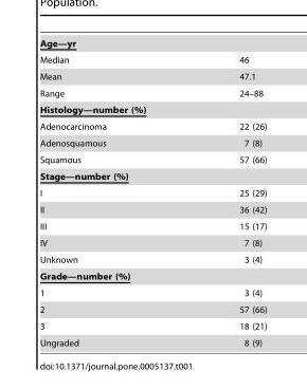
<table><tbody><tr><td colspan="2">Age—yr</td></tr><tr><td>Median</td><td>46</td></tr><tr><td>Mean</td><td>47.1</td></tr><tr><td>Range</td><td>24–88</td></tr><tr><td colspan="2">Histology—number (%)</td></tr><tr><td>Adenocarcinoma</td><td>22 (26)</td></tr><tr><td>Adenosquamous</td><td>7 (8)</td></tr><tr><td>Squamous</td><td>57 (66)</td></tr><tr><td colspan="2">Stage—number (%)</td></tr><tr><td>I</td><td>25 (29)</td></tr><tr><td>II</td><td>36 (42)</td></tr><tr><td>III</td><td>15 (17)</td></tr><tr><td>IV</td><td>7 (8)</td></tr><tr><td>Unknown</td><td>3 (4)</td></tr><tr><td colspan="2">Grade—number (%)</td></tr><tr><td>1</td><td>3 (4)</td></tr><tr><td>2</td><td>57 (66)</td></tr><tr><td>3</td><td>18 (21)</td></tr><tr><td>Ungraded</td><td>8 (9)</td></tr></tbody></table>